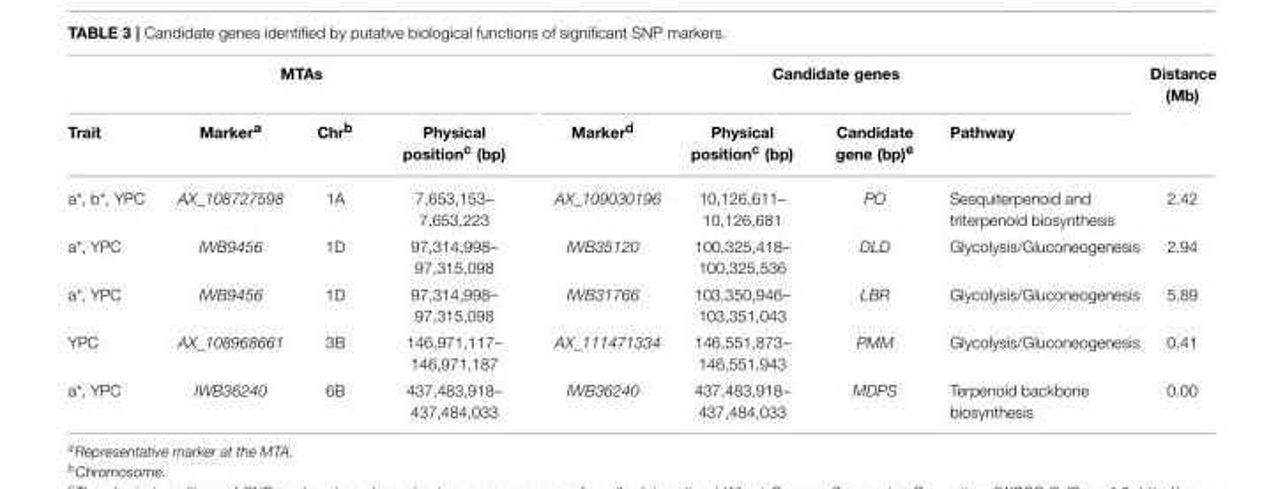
<table><thead><tr><td colspan="4">MTAs</td><td colspan="4">Candidate genes</td><td rowspan="2">Distance (Mb)</td></tr><tr><td>Trait</td><td>Marker<sup>a</sup></td><td>Chr<sup>b</sup></td><td>Physical position<sup>c</sup> (bp)</td><td>Marker<sup>d</sup></td><td>Physical position<sup>c</sup> (bp)</td><td>Candidate gene (bp)<sup>e</sup></td><td>Pathway</td></tr></thead><tbody><tr><td>a*, b*, YPC</td><td>AX_108727598</td><td>1A</td><td>7,653,153– 7,653,223</td><td>AX_109030196</td><td>10,126,611– 10,126,681</td><td>PO</td><td>Sesquiterpenoid and triterpenoid biosynthesis</td><td>2.42</td></tr><tr><td>a*, YPC</td><td>IWB9456</td><td>1D</td><td>97,314,998– 97,315,098</td><td>IWB35120</td><td>100,325,418– 100,325,536</td><td>DLD</td><td>Glycolysis/Gluconeogenesis</td><td>2.94</td></tr><tr><td>a*, YPC</td><td>IWB9456</td><td>1D</td><td>97,314,998– 97,315,098</td><td>IWB31766</td><td>103,350,946– 103,351,043</td><td>LBR</td><td>Glycolysis/Gluconeogenesis</td><td>5.89</td></tr><tr><td>YPC</td><td>AX_108968661</td><td>3B</td><td>146,971,117– 146,971,187</td><td>AX_111471334</td><td>146,551,873– 146,551,943</td><td>PMM</td><td>Glycolysis/Gluconeogenesis</td><td>0.41</td></tr><tr><td>a*, YPC</td><td>IWB36240</td><td>6B</td><td>437,483,918– 437,484,033</td><td>IWB36240</td><td>437,483,918– 437,484,033</td><td>MDPS</td><td>Terpenoid backbone biosynthesis</td><td>0.00</td></tr></tbody></table>